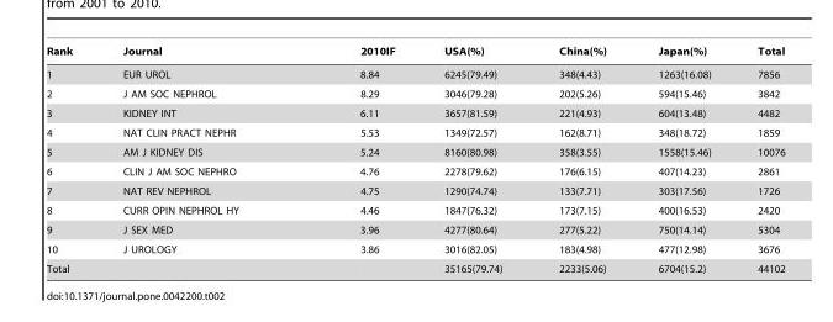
<table><thead><tr><td>Rank</td><td>Journal</td><td>2010IF</td><td>USA(%)</td><td>China(%)</td><td>Japan(%)</td><td>Total</td></tr></thead><tbody><tr><td>1</td><td>EUR UROL</td><td>8.84</td><td>6245(79.49)</td><td>348(4.43)</td><td>1263(16.08)</td><td>7856</td></tr><tr><td>2</td><td>J AM SOC NEPHROL</td><td>8.29</td><td>3046(79.28)</td><td>202(5.26)</td><td>594(15.46)</td><td>3842</td></tr><tr><td>3</td><td>KIDNEY INT</td><td>6.11</td><td>3657(81.59)</td><td>221(4.93)</td><td>604(13.48)</td><td>4482</td></tr><tr><td>4</td><td>NAT CLIN PRACT NEPHR</td><td>5.53</td><td>1349(72.57)</td><td>162(8.71)</td><td>348(18.72)</td><td>1859</td></tr><tr><td>5</td><td>AM J KIDNEY DIS</td><td>5.24</td><td>8160(80.98)</td><td>358(3.55)</td><td>1558(15.46)</td><td>10076</td></tr><tr><td>6</td><td>CLIN J AM SOC NEPHRO</td><td>4.76</td><td>2278(79.62)</td><td>176(6.15)</td><td>407(14.23)</td><td>2861</td></tr><tr><td>7</td><td>NAT REV NEPHROL</td><td>4.75</td><td>1290(74.74)</td><td>133(7.71)</td><td>303(17.56)</td><td>1726</td></tr><tr><td>8</td><td>CURR OPIN NEPHROL HY</td><td>4.46</td><td>1847(76.32)</td><td>173(7.15)</td><td>400(16.53)</td><td>2420</td></tr><tr><td>9</td><td>J SEX MED</td><td>3.96</td><td>4277(80.64)</td><td>277(5.22)</td><td>750(14.14)</td><td>5304</td></tr><tr><td>10</td><td>J UROLOGY</td><td>3.86</td><td>3016(82.05)</td><td>183(4.98)</td><td>477(12.98)</td><td>3676</td></tr><tr><td>Total</td><td></td><td></td><td>35165(79.74)</td><td>2233(5.06)</td><td>6704(15.2)</td><td>44102</td></tr></tbody></table>